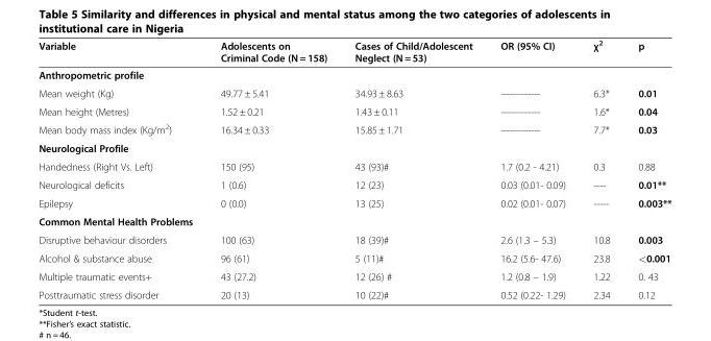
<table><thead><tr><td>Variable</td><td>Adolescents on Criminal Code (N = 158)</td><td>Cases of Child/Adolescent Neglect (N = 53)</td><td>OR (95% CI)</td><td>χ<sup>2</sup></td><td>p</td></tr></thead><tbody><tr><td colspan="6">Anthropometric profile</td></tr><tr><td>Mean weight (Kg)</td><td>49.77 ± 5.41</td><td>34.93 ± 8.63</td><td>-------------</td><td>6.3*</td><td>0.01</td></tr><tr><td>Mean height (Metres)</td><td>1.52 ± 0.21</td><td>1.43 ± 0.11</td><td>-------------</td><td>1.6*</td><td>0.04</td></tr><tr><td>Mean body mass index (Kg/m<sup>2</sup>)</td><td>16.34 ± 0.33</td><td>15.85 ± 1.71</td><td>-------------</td><td>7.7*</td><td>0.03</td></tr><tr><td colspan="6">Neurological Profile</td></tr><tr><td>Handedness (Right Vs. Left)</td><td>150 (95)</td><td>43 (93)#</td><td>1.7 (0.2 - 4.21)</td><td>0.3</td><td>0.88</td></tr><tr><td>Neurological deficits</td><td>1 (0.6)</td><td>12 (23)</td><td>0.03 (0.01- 0.09)</td><td>----</td><td>0.01**</td></tr><tr><td>Epilepsy</td><td>0 (0.0)</td><td>13 (25)</td><td>0.02 (0.01- 0.07)</td><td>-----</td><td>0.003**</td></tr><tr><td colspan="6">Common Mental Health Problems</td></tr><tr><td>Disruptive behaviour disorders</td><td>100 (63)</td><td>18 (39)#</td><td>2.6 (1.3 – 5.3)</td><td>10.8</td><td>0.003</td></tr><tr><td>Alcohol &amp; substance abuse</td><td>96 (61)</td><td>5 (11)#</td><td>16.2 (5.6- 47.6)</td><td>23.8</td><td>&lt;0.001</td></tr><tr><td>Multiple traumatic events+</td><td>43 (27.2)</td><td>12 (26) #</td><td>1.2 (0.8 – 1.9)</td><td>1.22</td><td>0. 43</td></tr><tr><td>Posttraumatic stress disorder</td><td>20 (13)</td><td>10 (22)#</td><td>0.52 (0.22- 1.29)</td><td>2.34</td><td>0.12</td></tr></tbody></table>